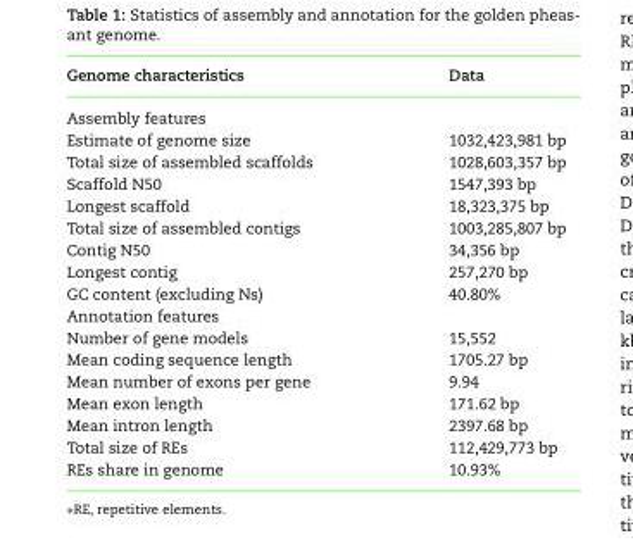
<table><thead><tr><td>Genome characteristics</td><td>Data</td></tr></thead><tbody><tr><td colspan="2">Assembly features</td></tr><tr><td>Estimate of genome size</td><td>1032,423,981 bp</td></tr><tr><td>Total size of assembled scaffolds</td><td>1028,603,357 bp</td></tr><tr><td>Scaffold N50</td><td>1547,393 bp</td></tr><tr><td>Longest scaffold</td><td>18,323,375 bp</td></tr><tr><td>Total size of assembled contigs</td><td>1003,285,807 bp</td></tr><tr><td>Contig N50</td><td>34,356 bp</td></tr><tr><td>Longest contig</td><td>257,270 bp</td></tr><tr><td>GC content (excluding Ns)</td><td>40.80%</td></tr><tr><td colspan="2">Annotation features</td></tr><tr><td>Number of gene models</td><td>15,552</td></tr><tr><td>Mean coding sequence length</td><td>1705.27 bp</td></tr><tr><td>Mean number of exons per gene</td><td>9.94</td></tr><tr><td>Mean exon length</td><td>171.62 bp</td></tr><tr><td>Mean intron length</td><td>2397.68 bp</td></tr><tr><td>Total size of REs</td><td>112,429,773 bp</td></tr><tr><td>REs share in genome</td><td>10.93%</td></tr></tbody></table>